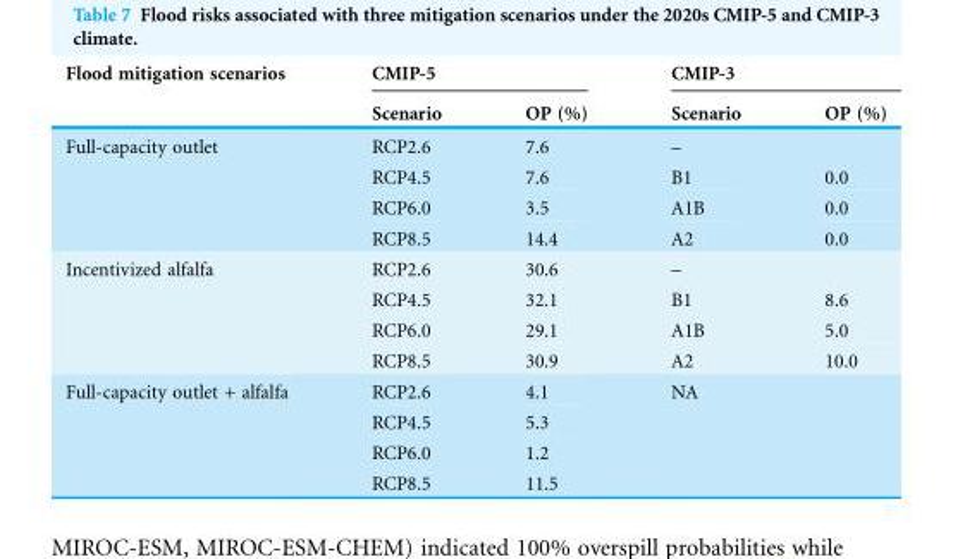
<table><thead><tr><td rowspan="2">Flood mitigation scenarios</td><td colspan="2">CMIP-5</td><td colspan="2">CMIP-3</td></tr><tr><td>Scenario</td><td>OP (%)</td><td>Scenario</td><td>OP (%)</td></tr></thead><tbody><tr><td rowspan="4">Full-capacity outlet</td><td>RCP2.6</td><td>7.6</td><td>–</td><td></td></tr><tr><td>RCP4.5</td><td>7.6</td><td>B1</td><td>0.0</td></tr><tr><td>RCP6.0</td><td>3.5</td><td>A1B</td><td>0.0</td></tr><tr><td>RCP8.5</td><td>14.4</td><td>A2</td><td>0.0</td></tr><tr><td rowspan="4">Incentivized alfalfa</td><td>RCP2.6</td><td>30.6</td><td>–</td><td></td></tr><tr><td>RCP4.5</td><td>32.1</td><td>B1</td><td>8.6</td></tr><tr><td>RCP6.0</td><td>29.1</td><td>A1B</td><td>5.0</td></tr><tr><td>RCP8.5</td><td>30.9</td><td>A2</td><td>10.0</td></tr><tr><td rowspan="4">Full-capacity outlet + alfalfa</td><td>RCP2.6</td><td>4.1</td><td rowspan="4" colspan="2">NA</td></tr><tr><td>RCP4.5</td><td>5.3</td></tr><tr><td>RCP6.0</td><td>1.2</td></tr><tr><td>RCP8.5</td><td>11.5</td></tr></tbody></table>